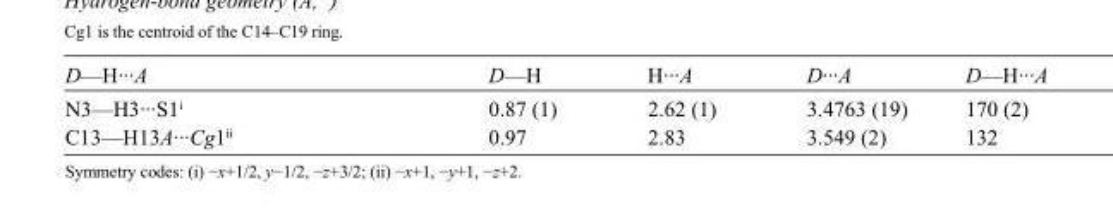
<table><tbody><tr><td>D—H···A</td><td>D—H</td><td>H···A</td><td>D···A</td><td>D—H···A</td></tr><tr><td>N3—H3···S1<sup>i</sup></td><td>0.87 (1)</td><td>2.62 (1)</td><td>3.4763 (19)</td><td>170 (2)</td></tr><tr><td>C13—H13A···Cg1<sup>ii</sup></td><td>0.97</td><td>2.83</td><td>3.549 (2)</td><td>132</td></tr></tbody></table>